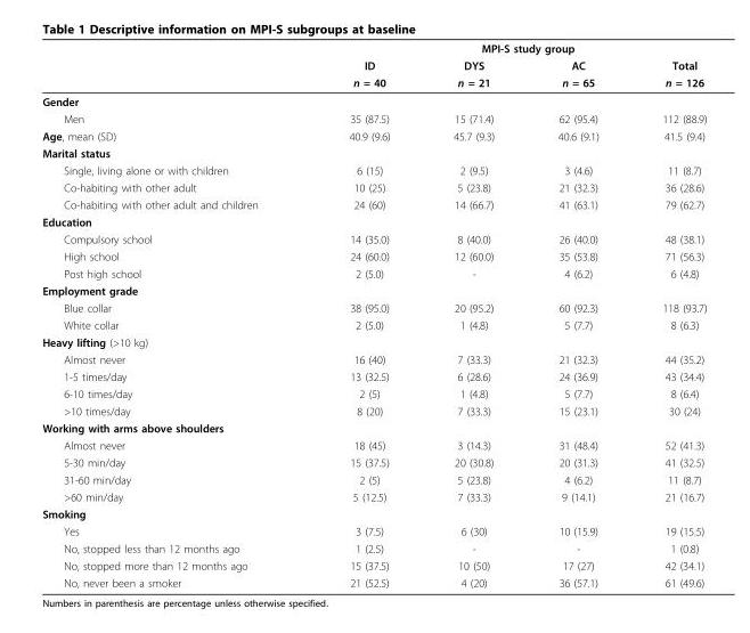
<table><thead><tr><td rowspan="3"></td><td colspan="4">MPI-S study group</td></tr><tr><td rowspan="2">ID n = 40</td><td rowspan="2">DYS n = 21</td><td rowspan="2">AC n = 65</td><td rowspan="2">Total n = 126</td></tr><tr></tr></thead><tbody><tr><td colspan="5">Gender</td></tr><tr><td>Men</td><td>35 (87.5)</td><td>15 (71.4)</td><td>62 (95.4)</td><td>112 (88.9)</td></tr><tr><td>Age, mean (SD)</td><td>40.9 (9.6)</td><td>45.7 (9.3)</td><td>40.6 (9.1)</td><td>41.5 (9.4)</td></tr><tr><td colspan="5">Marital status</td></tr><tr><td>Single, living alone or with children</td><td>6 (15)</td><td>2 (9.5)</td><td>3 (4.6)</td><td>11 (8.7)</td></tr><tr><td>Co-habiting with other adult</td><td>10 (25)</td><td>5 (23.8)</td><td>21 (32.3)</td><td>36 (28.6)</td></tr><tr><td>Co-habiting with other adult and children</td><td>24 (60)</td><td>14 (66.7)</td><td>41 (63.1)</td><td>79 (62.7)</td></tr><tr><td colspan="5">Education</td></tr><tr><td>Compulsory school</td><td>14 (35.0)</td><td>8 (40.0)</td><td>26 (40.0)</td><td>48 (38.1)</td></tr><tr><td>High school</td><td>24 (60.0)</td><td>12 (60.0)</td><td>35 (53.8)</td><td>71 (56.3)</td></tr><tr><td>Post high school</td><td>2 (5.0)</td><td>-</td><td>4 (6.2)</td><td>6 (4.8)</td></tr><tr><td colspan="5">Employment grade</td></tr><tr><td>Blue collar</td><td>38 (95.0)</td><td>20 (95.2)</td><td>60 (92.3)</td><td>118 (93.7)</td></tr><tr><td>White collar</td><td>2 (5.0)</td><td>1 (4.8)</td><td>5 (7.7)</td><td>8 (6.3)</td></tr><tr><td colspan="5">Heavy lifting (&gt;10 kg)</td></tr><tr><td>Almost never</td><td>16 (40)</td><td>7 (33.3)</td><td>21 (32.3)</td><td>44 (35.2)</td></tr><tr><td>1-5 times/day</td><td>13 (32.5)</td><td>6 (28.6)</td><td>24 (36.9)</td><td>43 (34.4)</td></tr><tr><td>6-10 times/day</td><td>2 (5)</td><td>1 (4.8)</td><td>5 (7.7)</td><td>8 (6.4)</td></tr><tr><td>&gt;10 times/day</td><td>8 (20)</td><td>7 (33.3)</td><td>15 (23.1)</td><td>30 (24)</td></tr><tr><td colspan="5">Working with arms above shoulders</td></tr><tr><td>Almost never</td><td>18 (45)</td><td>3 (14.3)</td><td>31 (48.4)</td><td>52 (41.3)</td></tr><tr><td>5-30 min/day</td><td>15 (37.5)</td><td>20 (30.8)</td><td>20 (31.3)</td><td>41 (32.5)</td></tr><tr><td>31-60 min/day</td><td>2 (5)</td><td>5 (23.8)</td><td>4 (6.2)</td><td>11 (8.7)</td></tr><tr><td>&gt;60 min/day</td><td>5 (12.5)</td><td>7 (33.3)</td><td>9 (14.1)</td><td>21 (16.7)</td></tr><tr><td colspan="5">Smoking</td></tr><tr><td>Yes</td><td>3 (7.5)</td><td>6 (30)</td><td>10 (15.9)</td><td>19 (15.5)</td></tr><tr><td>No, stopped less than 12 months ago</td><td>1 (2.5)</td><td>-</td><td>-</td><td>1 (0.8)</td></tr><tr><td>No, stopped more than 12 months ago</td><td>15 (37.5)</td><td>10 (50)</td><td>17 (27)</td><td>42 (34.1)</td></tr><tr><td>No, never been a smoker</td><td>21 (52.5)</td><td>4 (20)</td><td>36 (57.1)</td><td>61 (49.6)</td></tr></tbody></table>